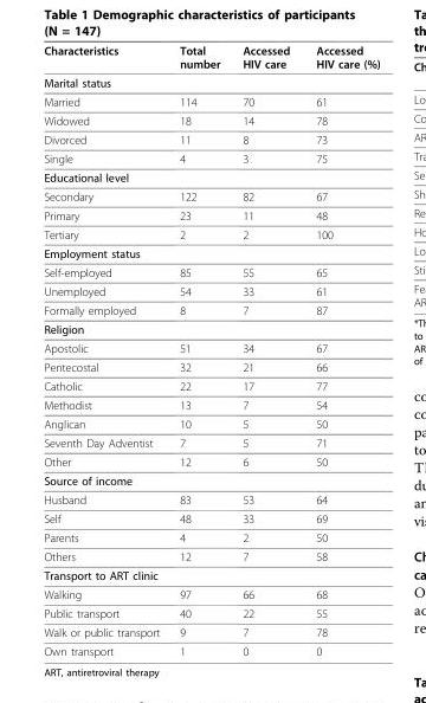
<table><thead><tr><td>Characteristics</td><td>Total number</td><td>Accessed HIV care</td><td>Accessed HIV care (%)</td></tr></thead><tbody><tr><td colspan="4">Marital status</td></tr><tr><td>Married</td><td>114</td><td>70</td><td>61</td></tr><tr><td>Widowed</td><td>18</td><td>14</td><td>78</td></tr><tr><td>Divorced</td><td>11</td><td>8</td><td>73</td></tr><tr><td>Single</td><td>4</td><td>3</td><td>75</td></tr><tr><td colspan="4">Educational level</td></tr><tr><td>Secondary</td><td>122</td><td>82</td><td>67</td></tr><tr><td>Primary</td><td>23</td><td>11</td><td>48</td></tr><tr><td>Tertiary</td><td>2</td><td>2</td><td>100</td></tr><tr><td colspan="4">Employment status</td></tr><tr><td>Self-employed</td><td>85</td><td>55</td><td>65</td></tr><tr><td>Unemployed</td><td>54</td><td>33</td><td>61</td></tr><tr><td>Formally employed</td><td>8</td><td>7</td><td>87</td></tr><tr><td colspan="4">Religion</td></tr><tr><td>Apostolic</td><td>51</td><td>34</td><td>67</td></tr><tr><td>Pentecostal</td><td>32</td><td>21</td><td>66</td></tr><tr><td>Catholic</td><td>22</td><td>17</td><td>77</td></tr><tr><td>Methodist</td><td>13</td><td>7</td><td>54</td></tr><tr><td>Anglican</td><td>10</td><td>5</td><td>50</td></tr><tr><td>Seventh Day Adventist</td><td>7</td><td>5</td><td>71</td></tr><tr><td>Other</td><td>12</td><td>6</td><td>50</td></tr><tr><td colspan="4">Source of income</td></tr><tr><td>Husband</td><td>83</td><td>53</td><td>64</td></tr><tr><td>Self</td><td>48</td><td>33</td><td>69</td></tr><tr><td>Parents</td><td>4</td><td>2</td><td>50</td></tr><tr><td>Others</td><td>12</td><td>7</td><td>58</td></tr><tr><td colspan="4">Transport to ART clinic</td></tr><tr><td>Walking</td><td>97</td><td>66</td><td>68</td></tr><tr><td>Public transport</td><td>40</td><td>22</td><td>55</td></tr><tr><td>Walk or public transport</td><td>9</td><td>7</td><td>78</td></tr><tr><td>Own transport</td><td>1</td><td>0</td><td>0</td></tr></tbody></table>